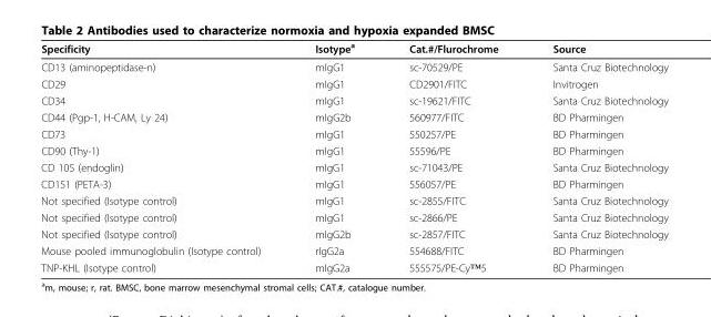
<table><thead><tr><td>Specificity</td><td>Isotype<sup>a</sup></td><td>Cat.#/Flurochrome</td><td>Source</td></tr></thead><tbody><tr><td>CD13 (aminopeptidase-n)</td><td>mIgG1</td><td>sc-70529/PE</td><td>Santa Cruz Biotechnology</td></tr><tr><td>CD29</td><td>mIgG1</td><td>CD2901/FITC</td><td>Invitrogen</td></tr><tr><td>CD34</td><td>mIgG1</td><td>sc-19621/FITC</td><td>Santa Cruz Biotechnology</td></tr><tr><td>CD44 (Pgp-1, H-CAM, Ly 24)</td><td>mIgG2b</td><td>560977/FITC</td><td>BD Pharmingen</td></tr><tr><td>CD73</td><td>mIgG1</td><td>550257/PE</td><td>BD Pharmingen</td></tr><tr><td>CD90 (Thy-1)</td><td>mIgG1</td><td>55596/PE</td><td>BD Pharmingen</td></tr><tr><td>CD 105 (endoglin)</td><td>mIgG1</td><td>sc-71043/PE</td><td>Santa Cruz Biotechnology</td></tr><tr><td>CD151 (PETA-3)</td><td>mIgG1</td><td>556057/PE</td><td>BD Pharmingen</td></tr><tr><td>Not specified (Isotype control)</td><td>mIgG1</td><td>sc-2855/FITC</td><td>Santa Cruz Biotechnology</td></tr><tr><td>Not specified (Isotype control)</td><td>mIgG1</td><td>sc-2866/PE</td><td>Santa Cruz Biotechnology</td></tr><tr><td>Not specified (Isotype control)</td><td>mIgG2b</td><td>sc-2857/FITC</td><td>Santa Cruz Biotechnology</td></tr><tr><td>Mouse pooled immunoglobulin (Isotype control)</td><td>rIgG2a</td><td>554688/FITC</td><td>BD Pharmingen</td></tr><tr><td>TNP-KHL (Isotype control)</td><td>mIgG2a</td><td>555575/PE-Cy™5</td><td>BD Pharmingen</td></tr></tbody></table>